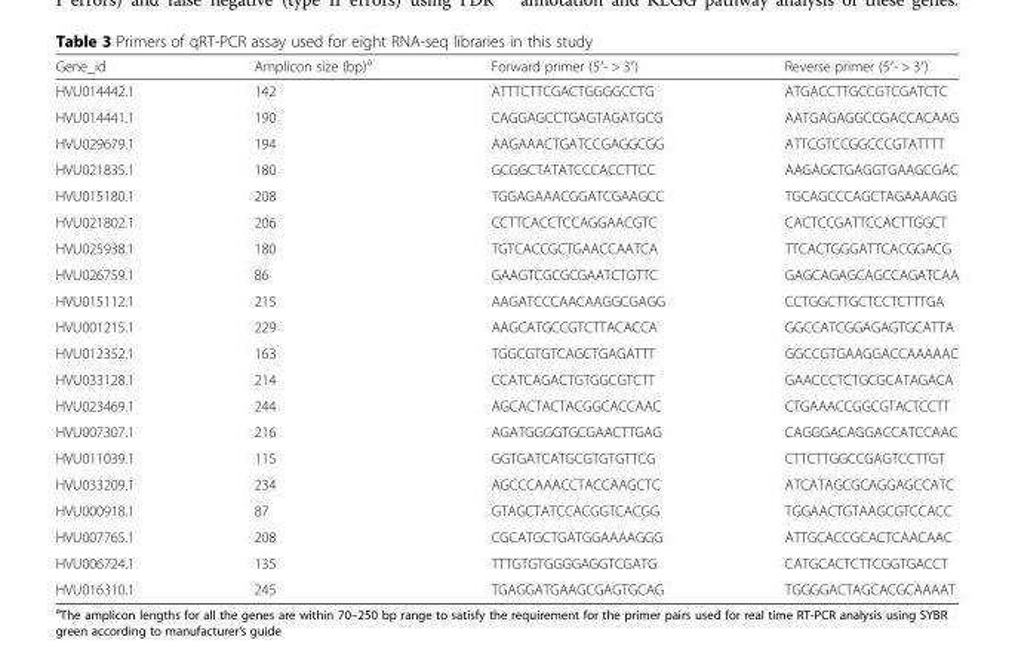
<table><thead><tr><td>Gene_id</td><td>Amplicon size (bp)<sup>a</sup></td><td>Forward primer (5′- &gt; 3′)</td><td>Reverse primer (5′- &gt; 3′)</td></tr></thead><tbody><tr><td>HVU014442.1</td><td>142</td><td>ATTTCTTCGACTGGGGCCTG</td><td>ATGACCTTGCCGTCGATCTC</td></tr><tr><td>HVU014441.1</td><td>190</td><td>CAGGAGCCTGAGTAGATGCG</td><td>AATGAGAGGCCGACCACAAG</td></tr><tr><td>HVU029679.1</td><td>194</td><td>AAGAAACTGATCCGAGGCGG</td><td>ATTCGTCCGGCCCGTATTTT</td></tr><tr><td>HVU021835.1</td><td>180</td><td>GCGGCTATATCCCACCTTCC</td><td>AAGAGCTGAGGTGAAGCGAC</td></tr><tr><td>HVU015180.1</td><td>208</td><td>TGGAGAAACGGATCGAAGCC</td><td>TGCAGCCCAGCTAGAAAAGG</td></tr><tr><td>HVU021802.1</td><td>206</td><td>CCTTCACCTCCAGGAACGTC</td><td>CACTCCGATTCCACTTGGCT</td></tr><tr><td>HVU025938.1</td><td>180</td><td>TGTCACCGCTGAACCAATCA</td><td>TTCACTGGGATTCACGGACG</td></tr><tr><td>HVU026759.1</td><td>86</td><td>GAAGTCGCGCGAATCTGTTC</td><td>GAGCAGAGCAGCCAGATCAA</td></tr><tr><td>HVU015112.1</td><td>215</td><td>AAGATCCCAACAAGGCGAGG</td><td>CCTGGCTTGCTCCTCTTTGA</td></tr><tr><td>HVU001215.1</td><td>229</td><td>AAGCATGCCGTCTTACACCA</td><td>GGCCATCGGAGAGTGCATTA</td></tr><tr><td>HVU012352.1</td><td>163</td><td>TGGCGTGTCAGCTGAGATTT</td><td>GGCCGTGAAGGACCAAAAAC</td></tr><tr><td>HVU033128.1</td><td>214</td><td>CCATCAGACTGTGGCGTCTT</td><td>GAACCCTCTGCGCATAGACA</td></tr><tr><td>HVU023469.1</td><td>244</td><td>AGCACTACTACGGCACCAAC</td><td>CTGAAACCGGCGTACTCCTT</td></tr><tr><td>HVU007307.1</td><td>216</td><td>AGATGGGGTGCGAACTTGAG</td><td>CAGGGACAGGACCATCCAAC</td></tr><tr><td>HVU011039.1</td><td>115</td><td>GGTGATCATGCGTGTGTTCG</td><td>CTTCTTGGCCGAGTCCTTGT</td></tr><tr><td>HVU033209.1</td><td>234</td><td>AGCCCAAACCTACCAAGCTC</td><td>ATCATAGCGCAGGAGCCATC</td></tr><tr><td>HVU000918.1</td><td>87</td><td>GTAGCTATCCACGGTCACGG</td><td>TGGAACTGTAAGCGTCCACC</td></tr><tr><td>HVU007765.1</td><td>208</td><td>CGCATGCTGATGGAAAAGGG</td><td>ATTGCACCGCACTCAACAAC</td></tr><tr><td>HVU006724.1</td><td>135</td><td>TTTGTGTGGGGAGGTCGATG</td><td>CATGCACTCTTCGGTGACCT</td></tr><tr><td>HVU016310.1</td><td>245</td><td>TGAGGATGAAGCGAGTGCAG</td><td>TGGGGACTAGCACGCAAAAT</td></tr></tbody></table>